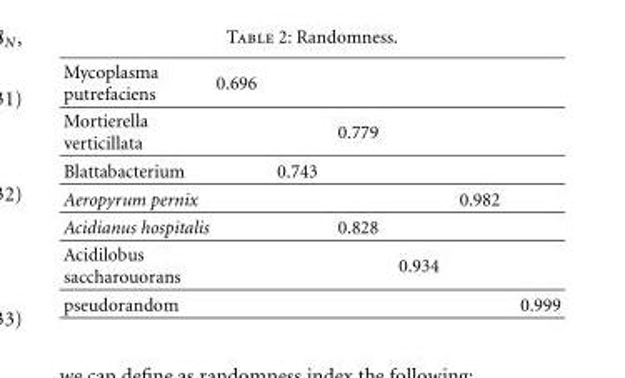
<table><tbody><tr><td>Mycoplasma putrefaciens</td><td>0.696</td><td></td><td></td><td></td><td></td><td></td></tr><tr><td>Mortierella verticillata</td><td></td><td></td><td>0.779</td><td></td><td></td><td></td></tr><tr><td>Blattabacterium</td><td></td><td>0.743</td><td></td><td></td><td></td><td></td></tr><tr><td>Aeropyrum pernix</td><td></td><td></td><td></td><td></td><td>0.982</td><td></td></tr><tr><td>Acidianus hospitalis</td><td></td><td></td><td>0.828</td><td></td><td></td><td></td></tr><tr><td>Acidilobus saccharouorans</td><td></td><td></td><td></td><td>0.934</td><td></td><td></td></tr><tr><td>pseudorandom</td><td></td><td></td><td></td><td></td><td></td><td>0.999</td></tr></tbody></table>